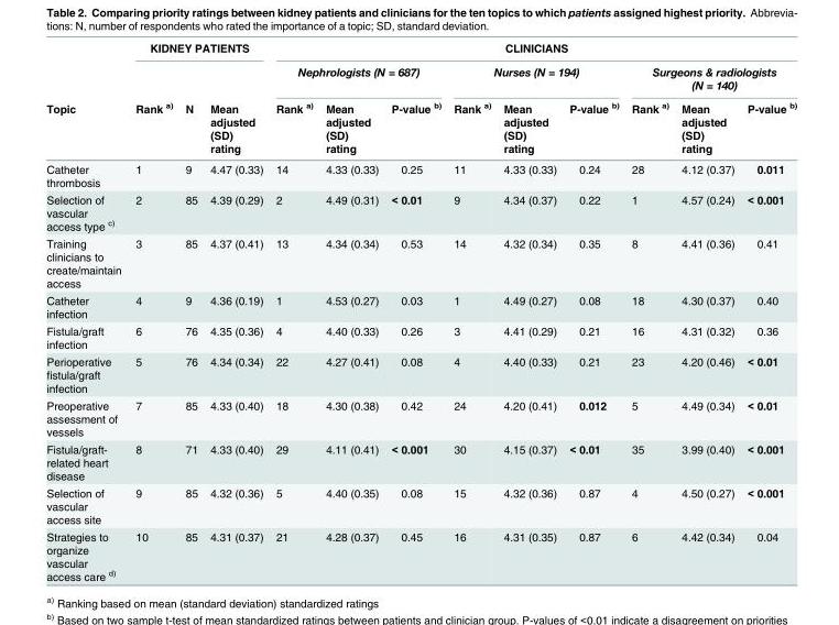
<table><thead><tr><td rowspan="3">Topic</td><td colspan="3">KIDNEY PATIENTS</td><td colspan="9">CLINICIANS</td></tr><tr><td rowspan="2">Rank <sup>a)</sup></td><td rowspan="2">N</td><td rowspan="2">Mean adjusted (SD) rating</td><td colspan="3">Nephrologists (N = 687)</td><td colspan="3">Nurses (N = 194)</td><td colspan="3">Surgeons &amp; radiologists (N = 140)</td></tr><tr><td>Rank <sup>a)</sup></td><td>Mean adjusted (SD) rating</td><td>P-value <sup>b)</sup></td><td>Rank <sup>a)</sup></td><td>Mean adjusted (SD) rating</td><td>P-value <sup>b)</sup></td><td>Rank <sup>a)</sup></td><td>Mean adjusted (SD) rating</td><td>P-value <sup>b)</sup></td></tr></thead><tbody><tr><td>Catheter thrombosis</td><td>1</td><td>9</td><td>4.47 (0.33)</td><td>14</td><td>4.33 (0.33)</td><td>0.25</td><td>11</td><td>4.33 (0.33)</td><td>0.24</td><td>28</td><td>4.12 (0.37)</td><td>0.011</td></tr><tr><td>Selection of vascular access type <sup>c)</sup></td><td>2</td><td>85</td><td>4.39 (0.29)</td><td>2</td><td>4.49 (0.31)</td><td>&lt; 0.01</td><td>9</td><td>4.34 (0.37)</td><td>0.22</td><td>1</td><td>4.57 (0.24)</td><td>&lt; 0.001</td></tr><tr><td>Training clinicians to create/maintain access</td><td>3</td><td>85</td><td>4.37 (0.41)</td><td>13</td><td>4.34 (0.34)</td><td>0.53</td><td>14</td><td>4.32 (0.34)</td><td>0.35</td><td>8</td><td>4.41 (0.36)</td><td>0.41</td></tr><tr><td>Catheter infection</td><td>4</td><td>9</td><td>4.36 (0.19)</td><td>1</td><td>4.53 (0.27)</td><td>0.03</td><td>1</td><td>4.49 (0.27)</td><td>0.08</td><td>18</td><td>4.30 (0.37)</td><td>0.40</td></tr><tr><td>Fistula/graft infection</td><td>6</td><td>76</td><td>4.35 (0.36)</td><td>4</td><td>4.40 (0.33)</td><td>0.26</td><td>3</td><td>4.41 (0.29)</td><td>0.21</td><td>16</td><td>4.31 (0.32)</td><td>0.36</td></tr><tr><td>Perioperative fistula/graft infection</td><td>5</td><td>76</td><td>4.34 (0.34)</td><td>22</td><td>4.27 (0.41)</td><td>0.08</td><td>4</td><td>4.40 (0.33)</td><td>0.21</td><td>23</td><td>4.20 (0.46)</td><td>&lt; 0.01</td></tr><tr><td>Preoperative assessment of vessels</td><td>7</td><td>85</td><td>4.33 (0.40)</td><td>18</td><td>4.30 (0.38)</td><td>0.42</td><td>24</td><td>4.20 (0.41)</td><td>0.012</td><td>5</td><td>4.49 (0.34)</td><td>&lt; 0.01</td></tr><tr><td>Fistula/graft- related heart disease</td><td>8</td><td>71</td><td>4.33 (0.40)</td><td>29</td><td>4.11 (0.41)</td><td>&lt; 0.001</td><td>30</td><td>4.15 (0.37)</td><td>&lt; 0.01</td><td>35</td><td>3.99 (0.40)</td><td>&lt; 0.001</td></tr><tr><td>Selection of vascular access site</td><td>9</td><td>85</td><td>4.32 (0.36)</td><td>5</td><td>4.40 (0.35)</td><td>0.08</td><td>15</td><td>4.32 (0.36)</td><td>0.87</td><td>4</td><td>4.50 (0.27)</td><td>&lt; 0.001</td></tr><tr><td>Strategies to organize vascular access care <sup>d)</sup></td><td>10</td><td>85</td><td>4.31 (0.37)</td><td>21</td><td>4.28 (0.37)</td><td>0.45</td><td>16</td><td>4.31 (0.35)</td><td>0.87</td><td>6</td><td>4.42 (0.34)</td><td>0.04</td></tr></tbody></table>